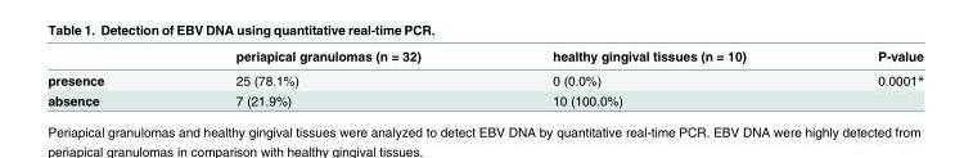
<table><thead><tr><td></td><td>periapical granulomas (n = 32)</td><td>healthy gingival tissues (n = 10)</td><td>P-value</td></tr></thead><tbody><tr><td>presence</td><td>25 (78.1%)</td><td>0 (0.0%)</td><td>0.0001*</td></tr><tr><td>absence</td><td>7 (21.9%)</td><td>10 (100.0%)</td><td></td></tr></tbody></table>